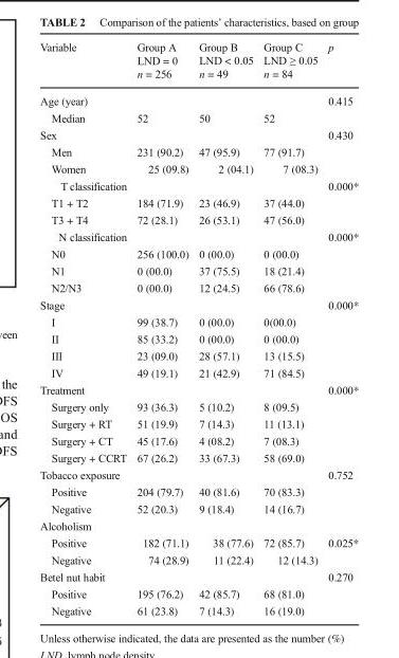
<table><thead><tr><td>Variable</td><td>Group A LND = 0 n = 256</td><td>Group B LND &lt; 0.05 n = 49</td><td>Group C LND ≥ 0.05 n = 84</td><td>p</td></tr></thead><tbody><tr><td>Age (year)</td><td></td><td></td><td></td><td>0.415</td></tr><tr><td>Median</td><td>52</td><td>50</td><td>52</td><td></td></tr><tr><td>Sex</td><td></td><td></td><td></td><td>0.430</td></tr><tr><td>Men</td><td>231 (90.2)</td><td>47 (95.9)</td><td>77 (91.7)</td><td></td></tr><tr><td>Women</td><td>25 (09.8)</td><td>2 (04.1)</td><td>7 (08.3)</td><td></td></tr><tr><td>T classification</td><td></td><td></td><td></td><td>0.000*</td></tr><tr><td>T1 + T2</td><td>184 (71.9)</td><td>23 (46.9)</td><td>37 (44.0)</td><td></td></tr><tr><td>T3 + T4</td><td>72 (28.1)</td><td>26 (53.1)</td><td>47 (56.0)</td><td></td></tr><tr><td>N classification</td><td></td><td></td><td></td><td>0.000*</td></tr><tr><td>N0</td><td>256 (100.0)</td><td>0 (00.0)</td><td>0 (00.0)</td><td></td></tr><tr><td>N1</td><td>0 (00.0)</td><td>37 (75.5)</td><td>18 (21.4)</td><td></td></tr><tr><td>N2/N3</td><td>0 (00.0)</td><td>12 (24.5)</td><td>66 (78.6)</td><td></td></tr><tr><td>Stage</td><td></td><td></td><td></td><td>0.000*</td></tr><tr><td>I</td><td>99 (38.7)</td><td>0 (00.0)</td><td>0(00.0)</td><td></td></tr><tr><td>II</td><td>85 (33.2)</td><td>0 (00.0)</td><td>0 (00.0)</td><td></td></tr><tr><td>III</td><td>23 (09.0)</td><td>28 (57.1)</td><td>13 (15.5)</td><td></td></tr><tr><td>IV</td><td>49 (19.1)</td><td>21 (42.9)</td><td>71 (84.5)</td><td></td></tr><tr><td>Treatment</td><td></td><td></td><td></td><td>0.000*</td></tr><tr><td>Surgery only</td><td>93 (36.3)</td><td>5 (10.2)</td><td>8 (09.5)</td><td></td></tr><tr><td>Surgery + RT</td><td>51 (19.9)</td><td>7 (14.3)</td><td>11 (13.1)</td><td></td></tr><tr><td>Surgery + CT</td><td>45 (17.6)</td><td>4 (08.2)</td><td>7 (08.3)</td><td></td></tr><tr><td>Surgery + CCRT</td><td>67 (26.2)</td><td>33 (67.3)</td><td>58 (69.0)</td><td></td></tr><tr><td>Tobacco exposure</td><td></td><td></td><td></td><td>0.752</td></tr><tr><td>Positive</td><td>204 (79.7)</td><td>40 (81.6)</td><td>70 (83.3)</td><td></td></tr><tr><td>Negative</td><td>52 (20.3)</td><td>9 (18.4)</td><td>14 (16.7)</td><td></td></tr><tr><td colspan="5">Alcoholism</td></tr><tr><td>Positive</td><td>182 (71.1)</td><td>38 (77.6)</td><td>72 (85.7)</td><td>0.025*</td></tr><tr><td>Negative</td><td>74 (28.9)</td><td>11 (22.4)</td><td>12 (14.3)</td><td></td></tr><tr><td>Betel nut habit</td><td></td><td></td><td></td><td>0.270</td></tr><tr><td>Positive</td><td>195 (76.2)</td><td>42 (85.7)</td><td>68 (81.0)</td><td></td></tr><tr><td>Negative</td><td>61 (23.8)</td><td>7 (14.3)</td><td>16 (19.0)</td><td></td></tr></tbody></table>